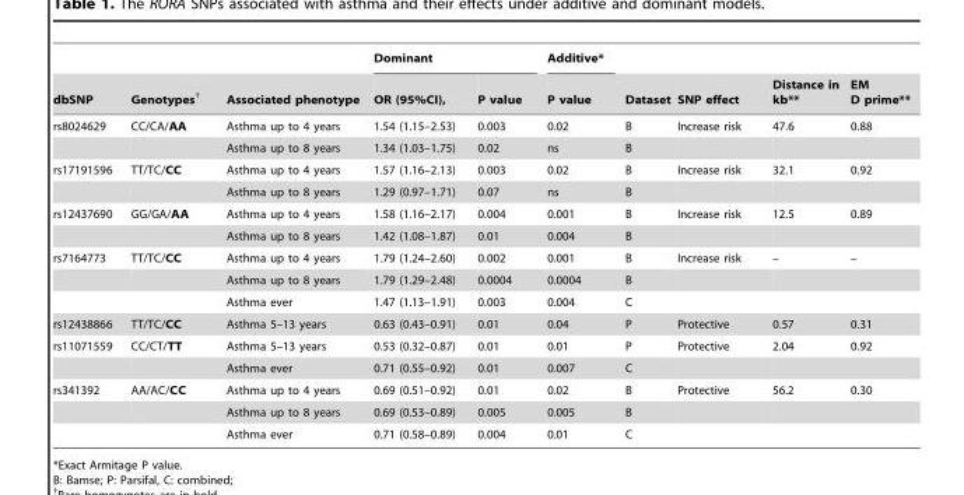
<table><thead><tr><td rowspan="2">dbSNP</td><td rowspan="2">Genotypes†</td><td rowspan="2">Associated phenotype</td><td colspan="2">Dominant</td><td rowspan="2">Additive* P value</td><td rowspan="2">Dataset</td><td rowspan="2">SNP effect</td><td rowspan="2">Distance in kb**</td><td rowspan="2">EM D prime**</td></tr><tr><td>OR (95%CI),</td><td>P value</td></tr></thead><tbody><tr><td rowspan="2">rs8024629</td><td>CC/CA/AA</td><td>Asthma up to 4 years</td><td>1.54 (1.15–2.53)</td><td>0.003</td><td>0.02</td><td>B</td><td>Increase risk</td><td>47.6</td><td>0.88</td></tr><tr><td></td><td>Asthma up to 8 years</td><td>1.34 (1.03–1.75)</td><td>0.02</td><td>ns</td><td>B</td><td></td><td></td><td></td></tr><tr><td rowspan="2">rs17191596</td><td>TT/TC/CC</td><td>Asthma up to 4 years</td><td>1.57 (1.16–2.13)</td><td>0.003</td><td>0.02</td><td>B</td><td>Increase risk</td><td>32.1</td><td>0.92</td></tr><tr><td></td><td>Asthma up to 8 years</td><td>1.29 (0.97–1.71)</td><td>0.07</td><td>ns</td><td>B</td><td></td><td></td><td></td></tr><tr><td rowspan="2">rs12437690</td><td>GG/GA/AA</td><td>Asthma up to 4 years</td><td>1.58 (1.16–2.17)</td><td>0.004</td><td>0.001</td><td>B</td><td>Increase risk</td><td>12.5</td><td>0.89</td></tr><tr><td></td><td>Asthma up to 8 years</td><td>1.42 (1.08–1.87)</td><td>0.01</td><td>0.004</td><td>B</td><td></td><td></td><td></td></tr><tr><td rowspan="3">rs7164773</td><td>TT/TC/CC</td><td>Asthma up to 4 years</td><td>1.79 (1.24–2.60)</td><td>0.002</td><td>0.001</td><td>B</td><td>Increase risk</td><td>–</td><td>–</td></tr><tr><td></td><td>Asthma up to 8 years</td><td>1.79 (1.29–2.48)</td><td>0.0004</td><td>0.0004</td><td>B</td><td></td><td></td><td></td></tr><tr><td></td><td>Asthma ever</td><td>1.47 (1.13–1.91)</td><td>0.003</td><td>0.004</td><td>C</td><td></td><td></td><td></td></tr><tr><td>rs12438866</td><td>TT/TC/CC</td><td>Asthma 5–13 years</td><td>0.63 (0.43–0.91)</td><td>0.01</td><td>0.04</td><td>P</td><td>Protective</td><td>0.57</td><td>0.31</td></tr><tr><td rowspan="2">rs11071559</td><td>CC/CT/TT</td><td>Asthma 5–13 years</td><td>0.53 (0.32–0.87)</td><td>0.01</td><td>0.01</td><td>P</td><td>Protective</td><td>2.04</td><td>0.92</td></tr><tr><td></td><td>Asthma ever</td><td>0.71 (0.55–0.92)</td><td>0.01</td><td>0.007</td><td>C</td><td></td><td></td><td></td></tr><tr><td rowspan="3">rs341392</td><td>AA/AC/CC</td><td>Asthma up to 4 years</td><td>0.69 (0.51–0.92)</td><td>0.01</td><td>0.02</td><td>B</td><td>Protective</td><td>56.2</td><td>0.30</td></tr><tr><td></td><td>Asthma up to 8 years</td><td>0.69 (0.53–0.89)</td><td>0.005</td><td>0.005</td><td>B</td><td></td><td></td><td></td></tr><tr><td></td><td>Asthma ever</td><td>0.71 (0.58–0.89)</td><td>0.004</td><td>0.01</td><td>C</td><td></td><td></td><td></td></tr></tbody></table>